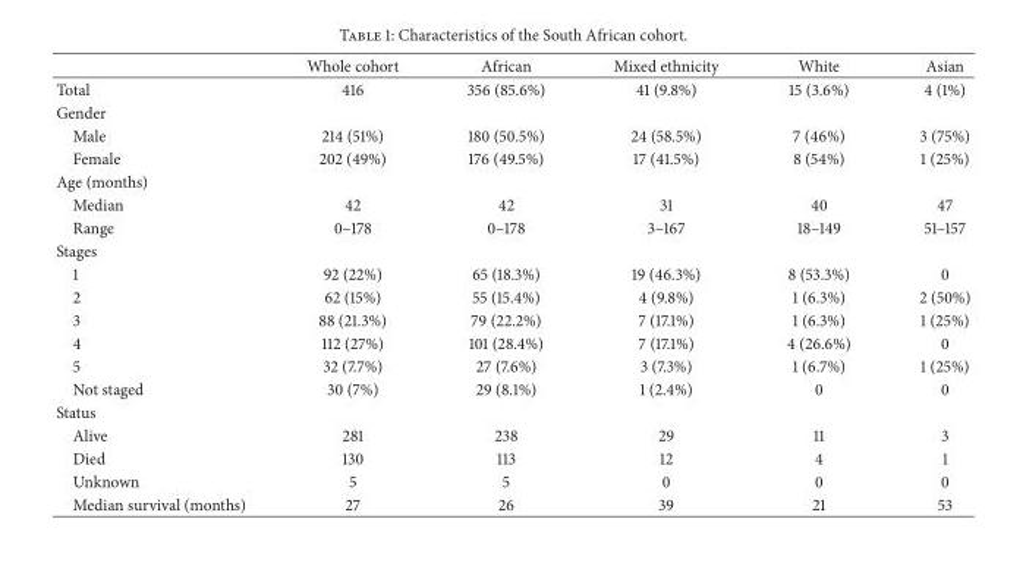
<table><thead><tr><td></td><td>Whole cohort</td><td>African</td><td>Mixed ethnicity</td><td>White</td><td>Asian</td></tr></thead><tbody><tr><td>Total</td><td>416</td><td>356 (85.6%)</td><td>41 (9.8%)</td><td>15 (3.6%)</td><td>4 (1%)</td></tr><tr><td colspan="6">Gender</td></tr><tr><td>Male</td><td>214 (51%)</td><td>180 (50.5%)</td><td>24 (58.5%)</td><td>7 (46%)</td><td>3 (75%)</td></tr><tr><td>Female</td><td>202 (49%)</td><td>176 (49.5%)</td><td>17 (41.5%)</td><td>8 (54%)</td><td>1 (25%)</td></tr><tr><td colspan="6">Age (months)</td></tr><tr><td>Median</td><td>42</td><td>42</td><td>31</td><td>40</td><td>47</td></tr><tr><td>Range</td><td>0–178</td><td>0–178</td><td>3–167</td><td>18–149</td><td>51–157</td></tr><tr><td colspan="6">Stages</td></tr><tr><td>1</td><td>92 (22%)</td><td>65 (18.3%)</td><td>19 (46.3%)</td><td>8 (53.3%)</td><td>0</td></tr><tr><td>2</td><td>62 (15%)</td><td>55 (15.4%)</td><td>4 (9.8%)</td><td>1 (6.3%)</td><td>2 (50%)</td></tr><tr><td>3</td><td>88 (21.3%)</td><td>79 (22.2%)</td><td>7 (17.1%)</td><td>1 (6.3%)</td><td>1 (25%)</td></tr><tr><td>4</td><td>112 (27%)</td><td>101 (28.4%)</td><td>7 (17.1%)</td><td>4 (26.6%)</td><td>0</td></tr><tr><td>5</td><td>32 (7.7%)</td><td>27 (7.6%)</td><td>3 (7.3%)</td><td>1 (6.7%)</td><td>1 (25%)</td></tr><tr><td>Not staged</td><td>30 (7%)</td><td>29 (8.1%)</td><td>1 (2.4%)</td><td>0</td><td>0</td></tr><tr><td colspan="6">Status</td></tr><tr><td>Alive</td><td>281</td><td>238</td><td>29</td><td>11</td><td>3</td></tr><tr><td>Died</td><td>130</td><td>113</td><td>12</td><td>4</td><td>1</td></tr><tr><td>Unknown</td><td>5</td><td>5</td><td>0</td><td>0</td><td>0</td></tr><tr><td>Median survival (months)</td><td>27</td><td>26</td><td>39</td><td>21</td><td>53</td></tr></tbody></table>